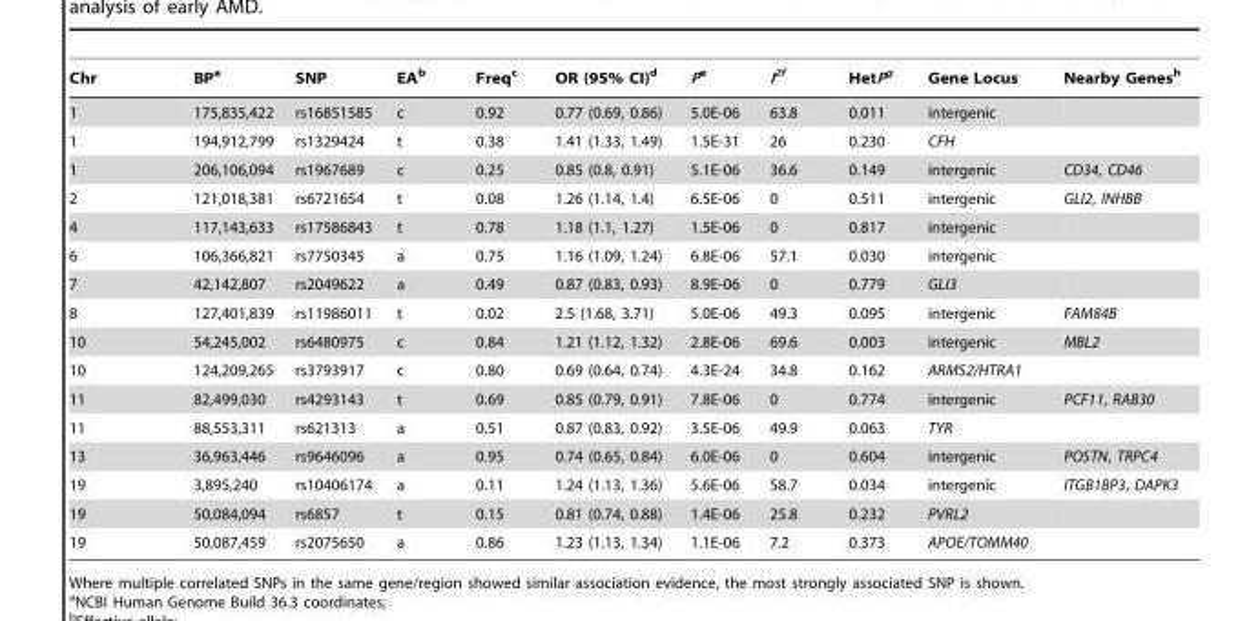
<table><thead><tr><td>Chr</td><td>BP<sup>a</sup></td><td>SNP</td><td>EA<sup>b</sup></td><td>Freq<sup>c</sup></td><td>OR (95% CI)<sup>d</sup></td><td>Pe</td><td>I<sup>2f</sup></td><td>HetPg</td><td>Gene Locus</td><td>Nearby Genes<sup>h</sup></td></tr></thead><tbody><tr><td>1</td><td>175,835,422</td><td>rs16851585</td><td>c</td><td>0.92</td><td>0.77 (0.69, 0.86)</td><td>5.0E-06</td><td>63.8</td><td>0.011</td><td>intergenic</td><td></td></tr><tr><td>1</td><td>194,912,799</td><td>rs1329424</td><td>t</td><td>0.38</td><td>1.41 (1.33, 1.49)</td><td>1.5E-31</td><td>26</td><td>0.230</td><td>CFH</td><td></td></tr><tr><td>1</td><td>206,106,094</td><td>rs1967689</td><td>c</td><td>0.25</td><td>0.85 (0.8, 0.91)</td><td>5.1E-06</td><td>36.6</td><td>0.149</td><td>intergenic</td><td>CD34, CD46</td></tr><tr><td>2</td><td>121,018,381</td><td>rs6721654</td><td>t</td><td>0.08</td><td>1.26 (1.14, 1.4)</td><td>6.5E-06</td><td>0</td><td>0.511</td><td>intergenic</td><td>GLI2, INHBB</td></tr><tr><td>4</td><td>117,143,633</td><td>rs17586843</td><td>t</td><td>0.78</td><td>1.18 (1.1, 1.27)</td><td>1.5E-06</td><td>0</td><td>0.817</td><td>intergenic</td><td></td></tr><tr><td>6</td><td>106,366,821</td><td>rs7750345</td><td>a</td><td>0.75</td><td>1.16 (1.09, 1.24)</td><td>6.8E-06</td><td>57.1</td><td>0.030</td><td>intergenic</td><td></td></tr><tr><td>7</td><td>42,142,807</td><td>rs2049622</td><td>a</td><td>0.49</td><td>0.87 (0.83, 0.93)</td><td>8.9E-06</td><td>0</td><td>0.779</td><td>GLI3</td><td></td></tr><tr><td>8</td><td>127,401,839</td><td>rs11986011</td><td>t</td><td>0.02</td><td>2.5 (1.68, 3.71)</td><td>5.0E-06</td><td>49.3</td><td>0.095</td><td>intergenic</td><td>FAM84B</td></tr><tr><td>10</td><td>54,245,002</td><td>rs6480975</td><td>c</td><td>0.84</td><td>1.21 (1.12, 1.32)</td><td>2.8E-06</td><td>69.6</td><td>0.003</td><td>intergenic</td><td>MBL2</td></tr><tr><td>10</td><td>124,209,265</td><td>rs3793917</td><td>c</td><td>0.80</td><td>0.69 (0.64, 0.74)</td><td>4.3E-24</td><td>34.8</td><td>0.162</td><td>ARMS2/HTRA1</td><td></td></tr><tr><td>11</td><td>82,499,030</td><td>rs4293143</td><td>t</td><td>0.69</td><td>0.85 (0.79, 0.91)</td><td>7.8E-06</td><td>0</td><td>0.774</td><td>intergenic</td><td>PCF11, RAB30</td></tr><tr><td>11</td><td>88,553,311</td><td>rs621313</td><td>a</td><td>0.51</td><td>0.87 (0.83, 0.92)</td><td>3.5E-06</td><td>49.9</td><td>0.063</td><td>TYR</td><td></td></tr><tr><td>13</td><td>36,963,446</td><td>rs9646096</td><td>a</td><td>0.95</td><td>0.74 (0.65, 0.84)</td><td>6.0E-06</td><td>0</td><td>0.604</td><td>intergenic</td><td>POSTN, TRPC4</td></tr><tr><td>19</td><td>3,895,240</td><td>rs10406174</td><td>a</td><td>0.11</td><td>1.24 (1.13, 1.36)</td><td>5.6E-06</td><td>58.7</td><td>0.034</td><td>intergenic</td><td>ITGB1BP3, DAPK3</td></tr><tr><td>19</td><td>50,084,094</td><td>rs6857</td><td>t</td><td>0.15</td><td>0.81 (0.74, 0.88)</td><td>1.4E-06</td><td>25.8</td><td>0.232</td><td>PVRL2</td><td></td></tr><tr><td>19</td><td>50,087,459</td><td>rs2075650</td><td>a</td><td>0.86</td><td>1.23 (1.13, 1.34)</td><td>1.1E-06</td><td>7.2</td><td>0.373</td><td>APOE/TOMM40</td><td></td></tr></tbody></table>